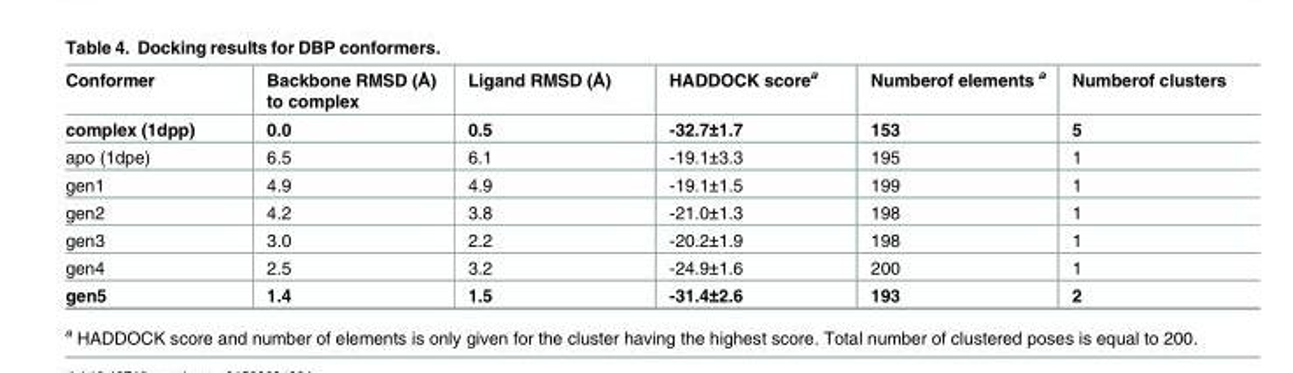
<table><thead><tr><td>Conformer</td><td>Backbone RMSD (Å) to complex</td><td>Ligand RMSD (Å)</td><td>HADDOCK score<sup>a</sup></td><td>Numberof elements <sup>a</sup></td><td>Numberof clusters</td></tr></thead><tbody><tr><td>complex (1dpp)</td><td>0.0</td><td>0.5</td><td>-32.7±1.7</td><td>153</td><td>5</td></tr><tr><td>apo (1dpe)</td><td>6.5</td><td>6.1</td><td>-19.1±3.3</td><td>195</td><td>1</td></tr><tr><td>gen1</td><td>4.9</td><td>4.9</td><td>-19.1±1.5</td><td>199</td><td>1</td></tr><tr><td>gen2</td><td>4.2</td><td>3.8</td><td>-21.0±1.3</td><td>198</td><td>1</td></tr><tr><td>gen3</td><td>3.0</td><td>2.2</td><td>-20.2±1.9</td><td>198</td><td>1</td></tr><tr><td>gen4</td><td>2.5</td><td>3.2</td><td>-24.9±1.6</td><td>200</td><td>1</td></tr><tr><td>gen5</td><td>1.4</td><td>1.5</td><td>-31.4±2.6</td><td>193</td><td>2</td></tr></tbody></table>